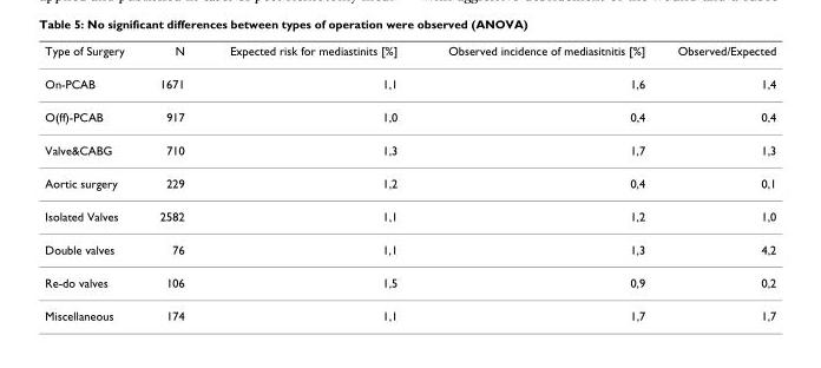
<table><thead><tr><td>Type of Surgery</td><td>N</td><td>Expected risk for mediastinits [%]</td><td>Observed incidence of mediasitnitis [%]</td><td>Observed/Expected</td></tr></thead><tbody><tr><td>On-PCAB</td><td>1671</td><td>1,1</td><td>1,6</td><td>1,4</td></tr><tr><td>O(ff)-PCAB</td><td>917</td><td>1,0</td><td>0,4</td><td>0,4</td></tr><tr><td>Valve&amp;CABG</td><td>710</td><td>1,3</td><td>1,7</td><td>1,3</td></tr><tr><td>Aortic surgery</td><td>229</td><td>1,2</td><td>0,4</td><td>0,1</td></tr><tr><td>Isolated Valves</td><td>2582</td><td>1,1</td><td>1,2</td><td>1,0</td></tr><tr><td>Double valves</td><td>76</td><td>1,1</td><td>1,3</td><td>4,2</td></tr><tr><td>Re-do valves</td><td>106</td><td>1,5</td><td>0,9</td><td>0,2</td></tr><tr><td>Miscellaneous</td><td>174</td><td>1,1</td><td>1,7</td><td>1,7</td></tr></tbody></table>